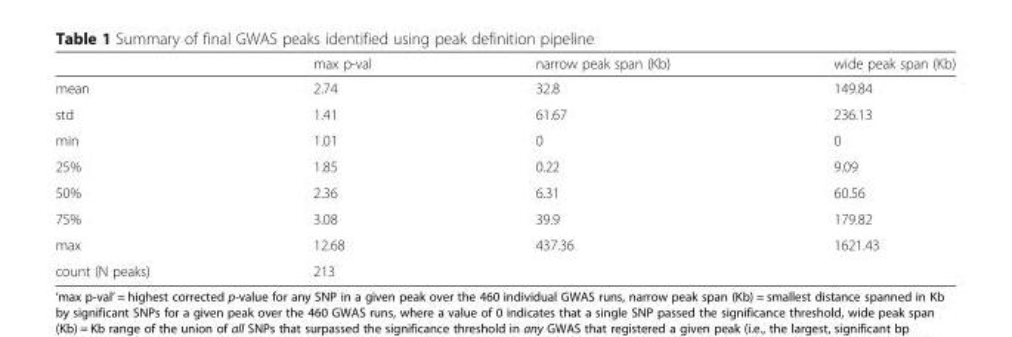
<table><thead><tr><td></td><td>max p-val</td><td>narrow peak span (Kb)</td><td>wide peak span (Kb)</td></tr></thead><tbody><tr><td>mean</td><td>2.74</td><td>32.8</td><td>149.84</td></tr><tr><td>std</td><td>1.41</td><td>61.67</td><td>236.13</td></tr><tr><td>min</td><td>1.01</td><td>0</td><td>0</td></tr><tr><td>25%</td><td>1.85</td><td>0.22</td><td>9.09</td></tr><tr><td>50%</td><td>2.36</td><td>6.31</td><td>60.56</td></tr><tr><td>75%</td><td>3.08</td><td>39.9</td><td>179.82</td></tr><tr><td>max</td><td>12.68</td><td>437.36</td><td>1621.43</td></tr><tr><td>count (N peaks)</td><td colspan="3">213</td></tr></tbody></table>